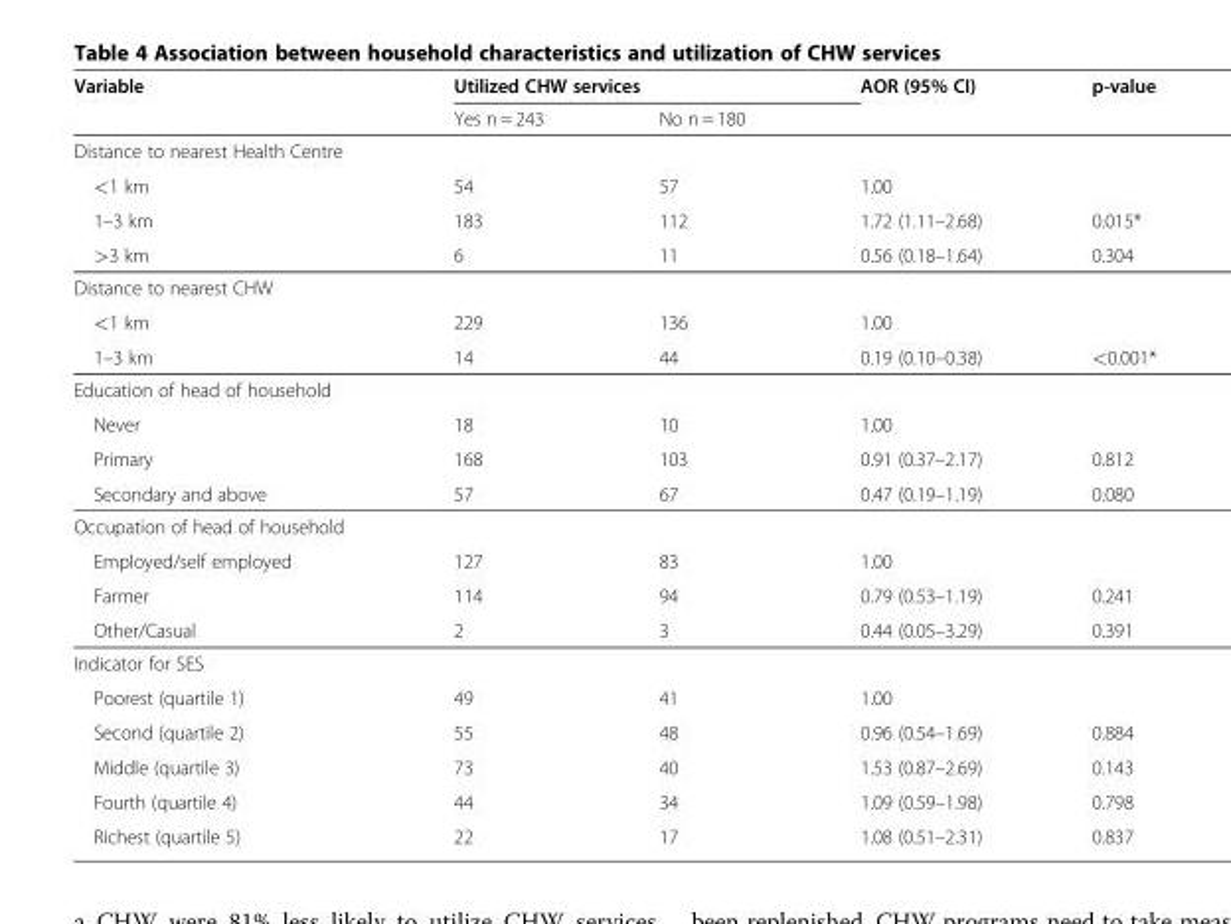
<table><thead><tr><td rowspan="2">Variable</td><td colspan="2">Utilized CHW services</td><td rowspan="2">AOR (95% CI)</td><td rowspan="2">p-value</td></tr><tr><td>Yes n = 243</td><td>No n = 180</td></tr></thead><tbody><tr><td colspan="5">Distance to nearest Health Centre</td></tr><tr><td>&lt;1 km</td><td>54</td><td>57</td><td>1.00</td><td></td></tr><tr><td>1–3 km</td><td>183</td><td>112</td><td>1.72 (1.11–2.68)</td><td>0.015*</td></tr><tr><td>&gt;3 km</td><td>6</td><td>11</td><td>0.56 (0.18–1.64)</td><td>0.304</td></tr><tr><td colspan="5">Distance to nearest CHW</td></tr><tr><td>&lt;1 km</td><td>229</td><td>136</td><td>1.00</td><td></td></tr><tr><td>1–3 km</td><td>14</td><td>44</td><td>0.19 (0.10–0.38)</td><td>&lt;0.001*</td></tr><tr><td colspan="5">Education of head of household</td></tr><tr><td>Never</td><td>18</td><td>10</td><td>1.00</td><td></td></tr><tr><td>Primary</td><td>168</td><td>103</td><td>0.91 (0.37–2.17)</td><td>0.812</td></tr><tr><td>Secondary and above</td><td>57</td><td>67</td><td>0.47 (0.19–1.19)</td><td>0.080</td></tr><tr><td colspan="5">Occupation of head of household</td></tr><tr><td>Employed/self employed</td><td>127</td><td>83</td><td>1.00</td><td></td></tr><tr><td>Farmer</td><td>114</td><td>94</td><td>0.79 (0.53–1.19)</td><td>0.241</td></tr><tr><td>Other/Casual</td><td>2</td><td>3</td><td>0.44 (0.05–3.29)</td><td>0.391</td></tr><tr><td colspan="5">Indicator for SES</td></tr><tr><td>Poorest (quartile 1)</td><td>49</td><td>41</td><td>1.00</td><td></td></tr><tr><td>Second (quartile 2)</td><td>55</td><td>48</td><td>0.96 (0.54–1.69)</td><td>0.884</td></tr><tr><td>Middle (quartile 3)</td><td>73</td><td>40</td><td>1.53 (0.87–2.69)</td><td>0.143</td></tr><tr><td>Fourth (quartile 4)</td><td>44</td><td>34</td><td>1.09 (0.59–1.98)</td><td>0.798</td></tr><tr><td>Richest (quartile 5)</td><td>22</td><td>17</td><td>1.08 (0.51–2.31)</td><td>0.837</td></tr></tbody></table>